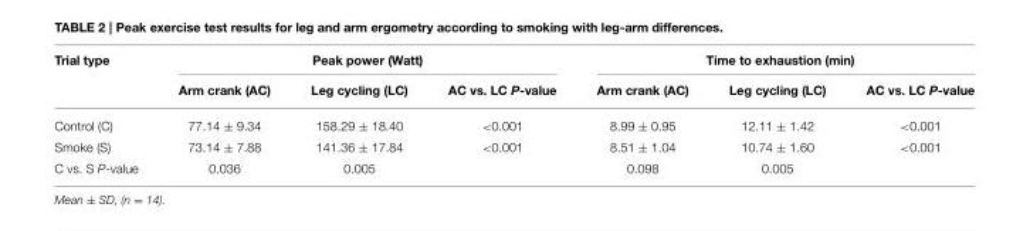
<table><thead><tr><td rowspan="2">Trial type</td><td colspan="3">Peak power (Watt)</td><td colspan="3">Time to exhaustion (min)</td></tr><tr><td>Arm crank (AC)</td><td>Leg cycling (LC)</td><td>AC vs. LC P-value</td><td>Arm crank (AC)</td><td>Leg cycling (LC)</td><td>AC vs. LC P-value</td></tr></thead><tbody><tr><td>Control (C)</td><td>77.14 ± 9.34</td><td>158.29 ± 18.40</td><td>&lt;0.001</td><td>8.99 ± 0.95</td><td>12.11 ± 1.42</td><td>&lt;0.001</td></tr><tr><td>Smoke (S)</td><td>73.14 ± 7.88</td><td>141.36 ± 17.84</td><td>&lt;0.001</td><td>8.51 ± 1.04</td><td>10.74 ± 1.60</td><td>&lt;0.001</td></tr><tr><td>C vs. S P-value</td><td>0.036</td><td>0.005</td><td></td><td>0.098</td><td>0.005</td><td></td></tr></tbody></table>